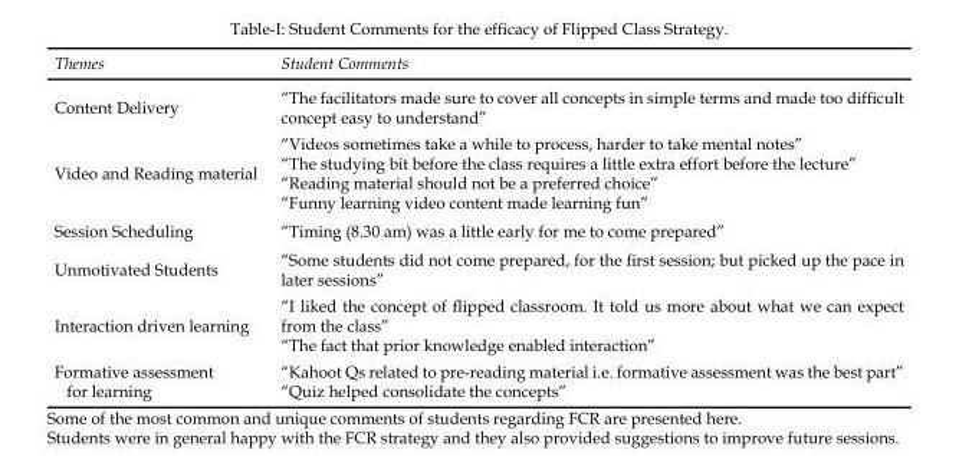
<table><thead><tr><td>Themes</td><td>Student Comments</td></tr></thead><tbody><tr><td>Content Delivery</td><td>“The facilitators made sure to cover all concepts in simple terms and made too difficult concept easy to understand”</td></tr><tr><td>Video and Reading material</td><td>“Videos sometimes take a while to process, harder to take mental notes” “The studying bit before the class requires a little extra effort before the lecture” “Reading material should not be a preferred choice” “Funny learning video content made learning fun”</td></tr><tr><td>Session Scheduling</td><td>“Timing (8.30 am) was a little early for me to come prepared”</td></tr><tr><td>Unmotivated Students</td><td>“Some students did not come prepared, for the first session; but picked up the pace in later sessions”</td></tr><tr><td>Interaction driven learning</td><td>“I liked the concept of flipped classroom. It told us more about what we can expect from the class” “The fact that prior knowledge enabled interaction”</td></tr><tr><td>Formative assessment for learning</td><td>“Kahoot Qs related to pre-reading material i.e. formative assessment was the best part” “Quiz helped consolidate the concepts”</td></tr></tbody></table>